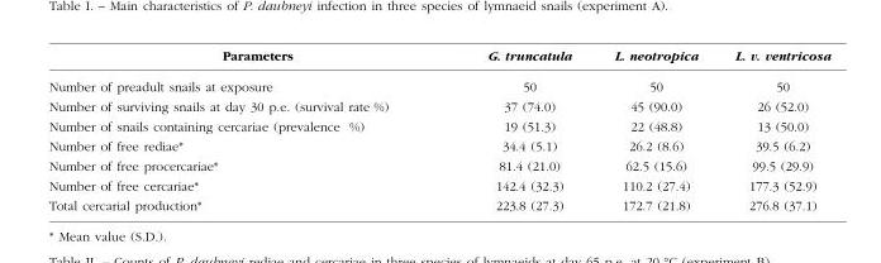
<table><thead><tr><td>Parameters</td><td>G. truncatula</td><td>L. neotropica</td><td>L. v. ventricosa</td></tr></thead><tbody><tr><td>Number of preadult snails at exposure</td><td>50</td><td>50</td><td>50</td></tr><tr><td>Number of surviving snails at day 30 p.e. (survival rate %)</td><td>37 (74.0)</td><td>45 (90.0)</td><td>26 (52.0)</td></tr><tr><td>Number of snails containing cercariae (prevalence %)</td><td>19 (51.3)</td><td>22 (48.8)</td><td>13 (50.0)</td></tr><tr><td>Number of free rediae*</td><td>34.4 (5.1)</td><td>26.2 (8.6)</td><td>39.5 (6.2)</td></tr><tr><td>Number of free procercariae*</td><td>81.4 (21.0)</td><td>62.5 (15.6)</td><td>99.5 (29.9)</td></tr><tr><td>Number of free cercariae*</td><td>142.4 (32.3)</td><td>110.2 (27.4)</td><td>177.3 (52.9)</td></tr><tr><td>Total cercarial production*</td><td>223.8 (27.3)</td><td>172.7 (21.8)</td><td>276.8 (37.1)</td></tr></tbody></table>